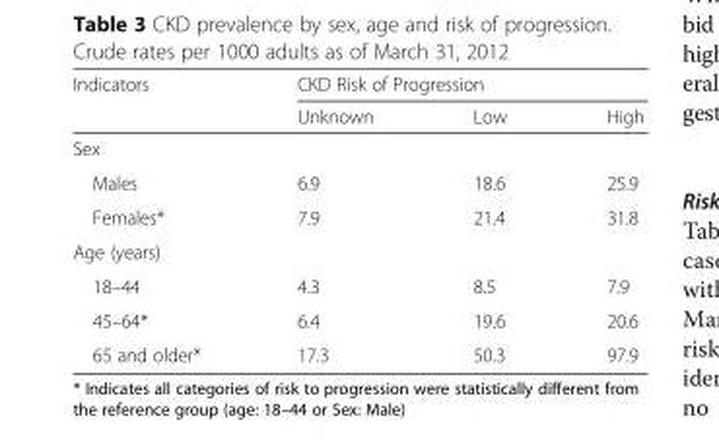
<table><thead><tr><td rowspan="2">Indicators</td><td colspan="3">CKD Risk of Progression</td></tr><tr><td>Unknown</td><td>Low</td><td>High</td></tr></thead><tbody><tr><td colspan="4">Sex</td></tr><tr><td>Males</td><td>6.9</td><td>18.6</td><td>25.9</td></tr><tr><td>Females*</td><td>7.9</td><td>21.4</td><td>31.8</td></tr><tr><td colspan="4">Age (years)</td></tr><tr><td>18–44</td><td>4.3</td><td>8.5</td><td>7.9</td></tr><tr><td>45–64*</td><td>6.4</td><td>19.6</td><td>20.6</td></tr><tr><td>65 and older*</td><td>17.3</td><td>50.3</td><td>97.9</td></tr></tbody></table>